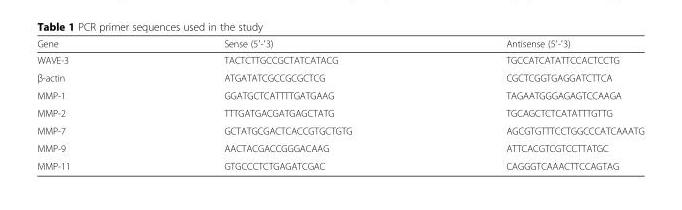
<table><thead><tr><td>Gene</td><td>Sense (5′-′3)</td><td>Antisense (5′-′3)</td></tr></thead><tbody><tr><td>WAVE-3</td><td>TACTCTTGCCGCTATCATACG</td><td>TGCCATCATATTCCACTCCTG</td></tr><tr><td>β-actin</td><td>ATGATATCGCCGCGCTCG</td><td>CGCTCGGTGAGGATCTTCA</td></tr><tr><td>MMP-1</td><td>GGATGCTCATTTTGATGAAG</td><td>TAGAATGGGAGAGTCCAAGA</td></tr><tr><td>MMP-2</td><td>TTTGATGACGATGAGCTATG</td><td>TGCAGCTCTCATATTTGTTG</td></tr><tr><td>MMP-7</td><td>GCTATGCGACTCACCGTGCTGTG</td><td>AGCGTGTTTCCTGGCCCATCAAATG</td></tr><tr><td>MMP-9</td><td>AACTACGACCGGGACAAG</td><td>ATTCACGTCGTCCTTATGC</td></tr><tr><td>MMP-11</td><td>GTGCCCTCTGAGATCGAC</td><td>CAGGGTCAAACTTCCAGTAG</td></tr></tbody></table>